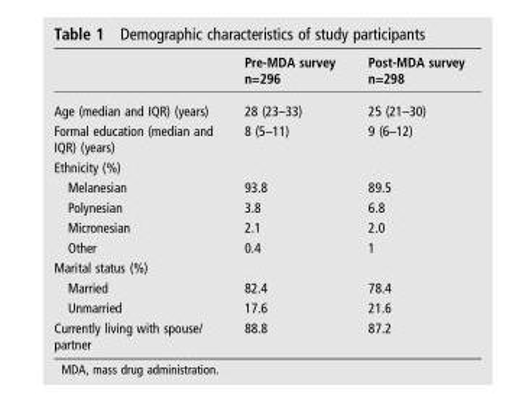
<table><thead><tr><td></td><td>Pre-MDA survey n=296</td><td>Post-MDA survey n=298</td></tr></thead><tbody><tr><td>Age (median and IQR) (years)</td><td>28 (23–33)</td><td>25 (21–30)</td></tr><tr><td>Formal education (median and IQR) (years)</td><td>8 (5–11)</td><td>9 (6–12)</td></tr><tr><td colspan="3">Ethnicity (%)</td></tr><tr><td>Melanesian</td><td>93.8</td><td>89.5</td></tr><tr><td>Polynesian</td><td>3.8</td><td>6.8</td></tr><tr><td>Micronesian</td><td>2.1</td><td>2.0</td></tr><tr><td>Other</td><td>0.4</td><td>1</td></tr><tr><td colspan="3">Marital status (%)</td></tr><tr><td>Married</td><td>82.4</td><td>78.4</td></tr><tr><td>Unmarried</td><td>17.6</td><td>21.6</td></tr><tr><td>Currently living with spouse/ partner</td><td>88.8</td><td>87.2</td></tr></tbody></table>